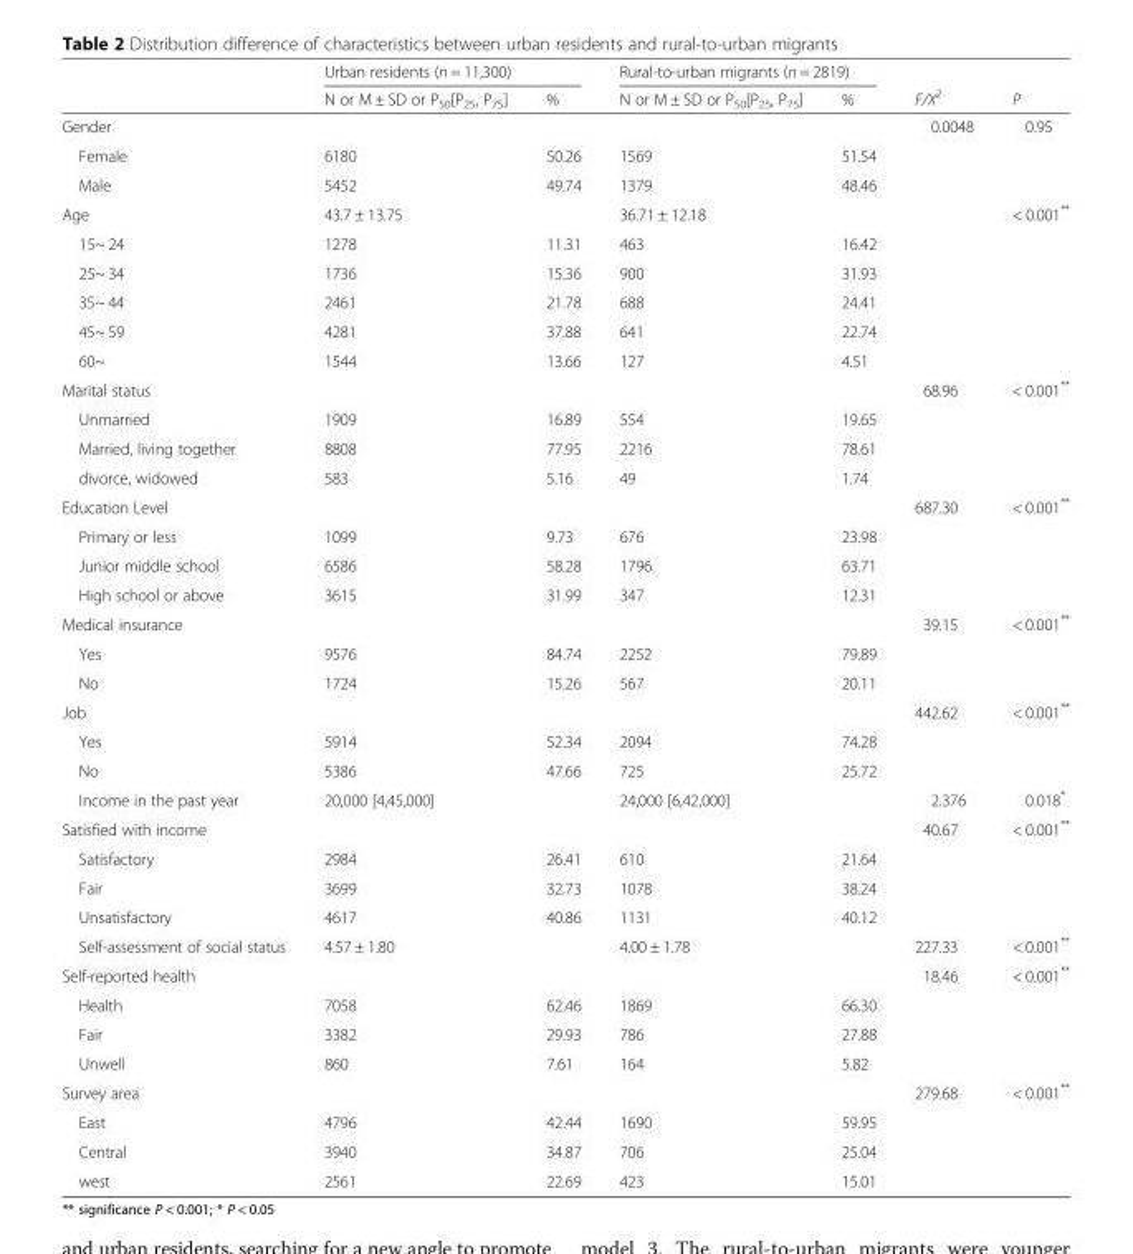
<table><thead><tr><td rowspan="2"></td><td colspan="2">Urban residents (n = 11,300)</td><td colspan="2">Rural-to-urban migrants (n = 2819)</td><td rowspan="2">F/X<sup>2</sup></td><td rowspan="2">P</td></tr><tr><td>N or M ± SD or P<sub>50</sub>[P<sub>25</sub>, P<sub>75</sub>]</td><td>%</td><td>N or M ± SD or P<sub>50</sub>[P<sub>25</sub>, P<sub>75</sub>]</td><td>%</td></tr></thead><tbody><tr><td>Gender</td><td></td><td></td><td></td><td></td><td>0.0048</td><td>0.95</td></tr><tr><td>Female</td><td>6180</td><td>50.26</td><td>1569</td><td>51.54</td><td></td><td></td></tr><tr><td>Male</td><td>5452</td><td>49.74</td><td>1379</td><td>48.46</td><td></td><td></td></tr><tr><td>Age</td><td>43.7 ± 13.75</td><td></td><td>36.71 ± 12.18</td><td></td><td></td><td>&lt; 0.001**</td></tr><tr><td>15~ 24</td><td>1278</td><td>11.31</td><td>463</td><td>16.42</td><td></td><td></td></tr><tr><td>25~ 34</td><td>1736</td><td>15.36</td><td>900</td><td>31.93</td><td></td><td></td></tr><tr><td>35~ 44</td><td>2461</td><td>21.78</td><td>688</td><td>24.41</td><td></td><td></td></tr><tr><td>45~ 59</td><td>4281</td><td>37.88</td><td>641</td><td>22.74</td><td></td><td></td></tr><tr><td>60~</td><td>1544</td><td>13.66</td><td>127</td><td>4.51</td><td></td><td></td></tr><tr><td>Marital status</td><td></td><td></td><td></td><td></td><td>68.96</td><td>&lt; 0.001**</td></tr><tr><td>Unmarried</td><td>1909</td><td>16.89</td><td>554</td><td>19.65</td><td></td><td></td></tr><tr><td>Married, living together</td><td>8808</td><td>77.95</td><td>2216</td><td>78.61</td><td></td><td></td></tr><tr><td>divorce, widowed</td><td>583</td><td>5.16</td><td>49</td><td>1.74</td><td></td><td></td></tr><tr><td>Education Level</td><td></td><td></td><td></td><td></td><td>687.30</td><td>&lt; 0.001**</td></tr><tr><td>Primary or less</td><td>1099</td><td>9.73</td><td>676</td><td>23.98</td><td></td><td></td></tr><tr><td>Junior middle school</td><td>6586</td><td>58.28</td><td>1796</td><td>63.71</td><td></td><td></td></tr><tr><td>High school or above</td><td>3615</td><td>31.99</td><td>347</td><td>12.31</td><td></td><td></td></tr><tr><td>Medical insurance</td><td></td><td></td><td></td><td></td><td>39.15</td><td>&lt; 0.001**</td></tr><tr><td>Yes</td><td>9576</td><td>84.74</td><td>2252</td><td>79.89</td><td></td><td></td></tr><tr><td>No</td><td>1724</td><td>15.26</td><td>567</td><td>20.11</td><td></td><td></td></tr><tr><td>Job</td><td></td><td></td><td></td><td></td><td>442.62</td><td>&lt; 0.001**</td></tr><tr><td>Yes</td><td>5914</td><td>52.34</td><td>2094</td><td>74.28</td><td></td><td></td></tr><tr><td>No</td><td>5386</td><td>47.66</td><td>725</td><td>25.72</td><td></td><td></td></tr><tr><td>Income in the past year</td><td>20,000 [4,45,000]</td><td></td><td>24,000 [6,42,000]</td><td></td><td>2.376</td><td>0.018*</td></tr><tr><td>Satisfied with income</td><td></td><td></td><td></td><td></td><td>40.67</td><td>&lt; 0.001**</td></tr><tr><td>Satisfactory</td><td>2984</td><td>26.41</td><td>610</td><td>21.64</td><td></td><td></td></tr><tr><td>Fair</td><td>3699</td><td>32.73</td><td>1078</td><td>38.24</td><td></td><td></td></tr><tr><td>Unsatisfactory</td><td>4617</td><td>40.86</td><td>1131</td><td>40.12</td><td></td><td></td></tr><tr><td>Self-assessment of social status</td><td>4.57 ± 1.80</td><td></td><td>4.00 ± 1.78</td><td></td><td>227.33</td><td>&lt; 0.001**</td></tr><tr><td>Self-reported health</td><td></td><td></td><td></td><td></td><td>18.46</td><td>&lt; 0.001**</td></tr><tr><td>Health</td><td>7058</td><td>62.46</td><td>1869</td><td>66.30</td><td></td><td></td></tr><tr><td>Fair</td><td>3382</td><td>29.93</td><td>786</td><td>27.88</td><td></td><td></td></tr><tr><td>Unwell</td><td>860</td><td>7.61</td><td>164</td><td>5.82</td><td></td><td></td></tr><tr><td>Survey area</td><td></td><td></td><td></td><td></td><td>279.68</td><td>&lt; 0.001**</td></tr><tr><td>East</td><td>4796</td><td>42.44</td><td>1690</td><td>59.95</td><td></td><td></td></tr><tr><td>Central</td><td>3940</td><td>34.87</td><td>706</td><td>25.04</td><td></td><td></td></tr><tr><td>west</td><td>2561</td><td>22.69</td><td>423</td><td>15.01</td><td></td><td></td></tr></tbody></table>